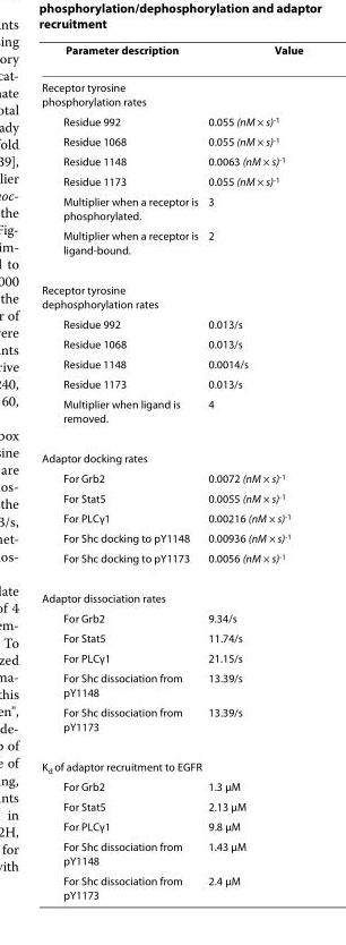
<table><thead><tr><td>Parameter description</td><td>Value</td></tr></thead><tbody><tr><td colspan="2">Receptor tyrosine phosphorylation rates</td></tr><tr><td>Residue 992</td><td>0.055 (nM × s)<sup>-1</sup></td></tr><tr><td>Residue 1068</td><td>0.055 (nM × s)<sup>-1</sup></td></tr><tr><td>Residue 1148</td><td>0.0063 (nM × s)<sup>-1</sup></td></tr><tr><td>Residue 1173</td><td>0.055 (nM × s)<sup>-1</sup></td></tr><tr><td>Multiplier when a receptor is phosphorylated.</td><td>3</td></tr><tr><td>Multiplier when a receptor is ligand-bound.</td><td>2</td></tr><tr><td colspan="2">Receptor tyrosine dephosphorylation rates</td></tr><tr><td>Residue 992</td><td>0.013/s</td></tr><tr><td>Residue 1068</td><td>0.013/s</td></tr><tr><td>Residue 1148</td><td>0.0014/s</td></tr><tr><td>Residue 1173</td><td>0.013/s</td></tr><tr><td>Multiplier when ligand is removed.</td><td>4</td></tr><tr><td colspan="2">Adaptor docking rates</td></tr><tr><td>For Grb2</td><td>0.0072 (nM × s)<sup>-1</sup></td></tr><tr><td>For Stat5</td><td>0.0055 (nM × s)<sup>-1</sup></td></tr><tr><td>For PLCγ1</td><td>0.00216 (nM × s)<sup>-1</sup></td></tr><tr><td>For Shc docking to pY1148</td><td>0.00936 (nM × s)<sup>-1</sup></td></tr><tr><td>For Shc docking to pY1173</td><td>0.0056 (nM × s)<sup>-1</sup></td></tr><tr><td colspan="2">Adaptor dissociation rates</td></tr><tr><td>For Grb2</td><td>9.34/s</td></tr><tr><td>For Stat5</td><td>11.74/s</td></tr><tr><td>For PLCγ1</td><td>21.15/s</td></tr><tr><td>For Shc dissociation from pY1148</td><td>13.39/s</td></tr><tr><td>For Shc dissociation from pY1173</td><td>13.39/s</td></tr><tr><td colspan="2">K<sub>d</sub> of adaptor recruitment to EGFR</td></tr><tr><td>For Grb2</td><td>1.3 μM</td></tr><tr><td>For Stat5</td><td>2.13 μM</td></tr><tr><td>For PLCγ1</td><td>9.8 μM</td></tr><tr><td>For Shc dissociation from pY1148</td><td>1.43 μM</td></tr><tr><td>For Shc dissociation from pY1173</td><td>2.4 μM</td></tr></tbody></table>